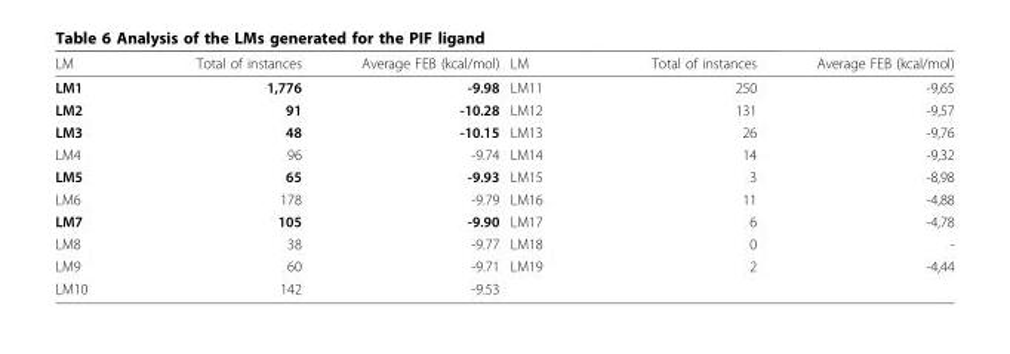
<table><thead><tr><td>LM</td><td>Total of instances</td><td>Average FEB (kcal/mol)</td><td>LM</td><td>Total of instances</td><td>Average FEB (kcal/mol)</td></tr></thead><tbody><tr><td>LM1</td><td>1,776</td><td>-9.98</td><td>LM11</td><td>250</td><td>-9,65</td></tr><tr><td>LM2</td><td>91</td><td>-10.28</td><td>LM12</td><td>131</td><td>-9,57</td></tr><tr><td>LM3</td><td>48</td><td>-10.15</td><td>LM13</td><td>26</td><td>-9,76</td></tr><tr><td>LM4</td><td>96</td><td>-9.74</td><td>LM14</td><td>14</td><td>-9,32</td></tr><tr><td>LM5</td><td>65</td><td>-9.93</td><td>LM15</td><td>3</td><td>-8,98</td></tr><tr><td>LM6</td><td>178</td><td>-9.79</td><td>LM16</td><td>11</td><td>-4,88</td></tr><tr><td>LM7</td><td>105</td><td>-9.90</td><td>LM17</td><td>6</td><td>-4,78</td></tr><tr><td>LM8</td><td>38</td><td>-9.77</td><td>LM18</td><td>0</td><td>-</td></tr><tr><td>LM9</td><td>60</td><td>-9.71</td><td>LM19</td><td>2</td><td>-4,44</td></tr><tr><td>LM10</td><td>142</td><td>-9.53</td><td></td><td></td><td></td></tr></tbody></table>